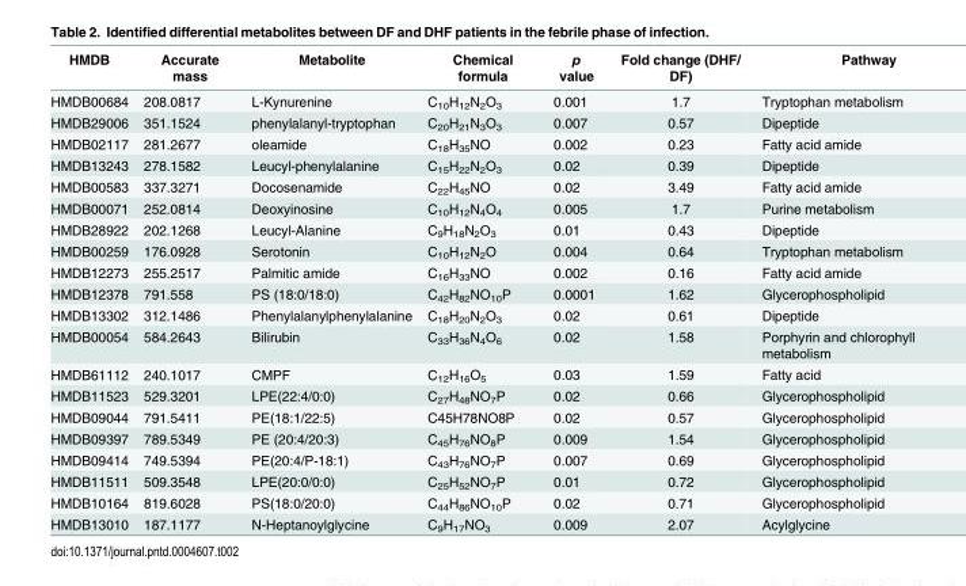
<table><thead><tr><td>HMDB</td><td>Accurate mass</td><td>Metabolite</td><td>Chemical formula</td><td>p value</td><td>Fold change (DHF/ DF)</td><td>Pathway</td></tr></thead><tbody><tr><td>HMDB00684</td><td>208.0817</td><td>L-Kynurenine</td><td>C<sub>10</sub>H<sub>12</sub>N<sub>2</sub>O<sub>3</sub></td><td>0.001</td><td>1.7</td><td>Tryptophan metabolism</td></tr><tr><td>HMDB29006</td><td>351.1524</td><td>phenylalanyl-tryptophan</td><td>C<sub>20</sub>H<sub>21</sub>N<sub>3</sub>O<sub>3</sub></td><td>0.007</td><td>0.57</td><td>Dipeptide</td></tr><tr><td>HMDB02117</td><td>281.2677</td><td>oleamide</td><td>C<sub>18</sub>H<sub>35</sub>NO</td><td>0.002</td><td>0.23</td><td>Fatty acid amide</td></tr><tr><td>HMDB13243</td><td>278.1582</td><td>Leucyl-phenylalanine</td><td>C<sub>15</sub>H<sub>22</sub>N<sub>2</sub>O<sub>3</sub></td><td>0.02</td><td>0.39</td><td>Dipeptide</td></tr><tr><td>HMDB00583</td><td>337.3271</td><td>Docosenamide</td><td>C<sub>22</sub>H<sub>45</sub>NO</td><td>0.02</td><td>3.49</td><td>Fatty acid amide</td></tr><tr><td>HMDB00071</td><td>252.0814</td><td>Deoxyinosine</td><td>C<sub>10</sub>H<sub>12</sub>N<sub>4</sub>O<sub>4</sub></td><td>0.005</td><td>1.7</td><td>Purine metabolism</td></tr><tr><td>HMDB28922</td><td>202.1268</td><td>Leucyl-Alanine</td><td>C<sub>9</sub>H<sub>18</sub>N<sub>2</sub>O<sub>3</sub></td><td>0.01</td><td>0.43</td><td>Dipeptide</td></tr><tr><td>HMDB00259</td><td>176.0928</td><td>Serotonin</td><td>C<sub>10</sub>H<sub>12</sub>N<sub>2</sub>O</td><td>0.004</td><td>0.64</td><td>Tryptophan metabolism</td></tr><tr><td>HMDB12273</td><td>255.2517</td><td>Palmitic amide</td><td>C<sub>16</sub>H<sub>33</sub>NO</td><td>0.002</td><td>0.16</td><td>Fatty acid amide</td></tr><tr><td>HMDB12378</td><td>791.558</td><td>PS (18:0/18:0)</td><td>C<sub>42</sub>H<sub>82</sub>NO<sub>10</sub>P</td><td>0.0001</td><td>1.62</td><td>Glycerophospholipid</td></tr><tr><td>HMDB13302</td><td>312.1486</td><td>Phenylalanylphenylalanine</td><td>C<sub>18</sub>H<sub>20</sub>N<sub>2</sub>O<sub>3</sub></td><td>0.02</td><td>0.61</td><td>Dipeptide</td></tr><tr><td>HMDB00054</td><td>584.2643</td><td>Bilirubin</td><td>C<sub>33</sub>H<sub>36</sub>N<sub>4</sub>O<sub>6</sub></td><td>0.02</td><td>1.58</td><td>Porphyrin and chlorophyll metabolism</td></tr><tr><td>HMDB61112</td><td>240.1017</td><td>CMPF</td><td>C<sub>12</sub>H<sub>16</sub>O<sub>5</sub></td><td>0.03</td><td>1.59</td><td>Fatty acid</td></tr><tr><td>HMDB11523</td><td>529.3201</td><td>LPE(22:4/0:0)</td><td>C<sub>27</sub>H<sub>48</sub>NO<sub>7</sub>P</td><td>0.02</td><td>0.66</td><td>Glycerophospholipid</td></tr><tr><td>HMDB09044</td><td>791.5411</td><td>PE(18:1/22:5)</td><td>C45H78NO8P</td><td>0.02</td><td>0.57</td><td>Glycerophospholipid</td></tr><tr><td>HMDB09397</td><td>789.5349</td><td>PE (20:4/20:3)</td><td>C<sub>45</sub>H<sub>76</sub>NO<sub>8</sub>P</td><td>0.009</td><td>1.54</td><td>Glycerophospholipid</td></tr><tr><td>HMDB09414</td><td>749.5394</td><td>PE(20:4/P-18:1)</td><td>C<sub>43</sub>H<sub>76</sub>NO<sub>7</sub>P</td><td>0.007</td><td>0.69</td><td>Glycerophospholipid</td></tr><tr><td>HMDB11511</td><td>509.3548</td><td>LPE(20:0/0:0)</td><td>C<sub>25</sub>H<sub>52</sub>NO<sub>7</sub>P</td><td>0.01</td><td>0.72</td><td>Glycerophospholipid</td></tr><tr><td>HMDB10164</td><td>819.6028</td><td>PS(18:0/20:0)</td><td>C<sub>44</sub>H<sub>86</sub>NO<sub>10</sub>P</td><td>0.02</td><td>0.71</td><td>Glycerophospholipid</td></tr><tr><td>HMDB13010</td><td>187.1177</td><td>N-Heptanoylglycine</td><td>C<sub>9</sub>H<sub>17</sub>NO<sub>3</sub></td><td>0.009</td><td>2.07</td><td>Acylglycine</td></tr></tbody></table>